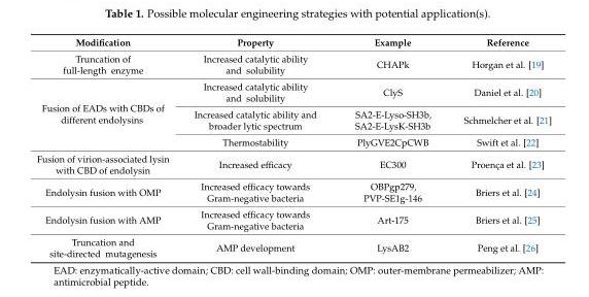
<table><thead><tr><td>Modification</td><td>Property</td><td>Example</td><td>Reference</td></tr></thead><tbody><tr><td>Truncation of full-length enzyme</td><td>Increased catalytic ability and solubility</td><td>CHAPk</td><td>Horgan et al. [19]</td></tr><tr><td rowspan="3">Fusion of EADs with CBDs of different endolysins</td><td>Increased catalytic ability and solubility</td><td>ClyS</td><td>Daniel et al. [20]</td></tr><tr><td>Increased catalytic ability and broader lytic spectrum</td><td>SA2-E-Lyso-SH3b, SA2-E-LysK-SH3b</td><td>Schmelcher et al. [21]</td></tr><tr><td>Thermostability</td><td>PlyGVE2CpCWB</td><td>Swift et al. [22]</td></tr><tr><td>Fusion of virion-associated lysin with CBD of endolysin</td><td>Increased efficacy</td><td>EC300</td><td>Proença et al. [23]</td></tr><tr><td>Endolysin fusion with OMP</td><td>Increased efficacy towards Gram-negative bacteria</td><td>OBPgp279, PVP-SE1g-146</td><td>Briers et al. [24]</td></tr><tr><td>Endolysin fusion with AMP</td><td>Increased efficacy towards Gram-negative bacteria</td><td>Art-175</td><td>Briers et al. [25]</td></tr><tr><td>Truncation and site-directed mutagenesis</td><td>AMP development</td><td>LysAB2</td><td>Peng et al. [26]</td></tr></tbody></table>